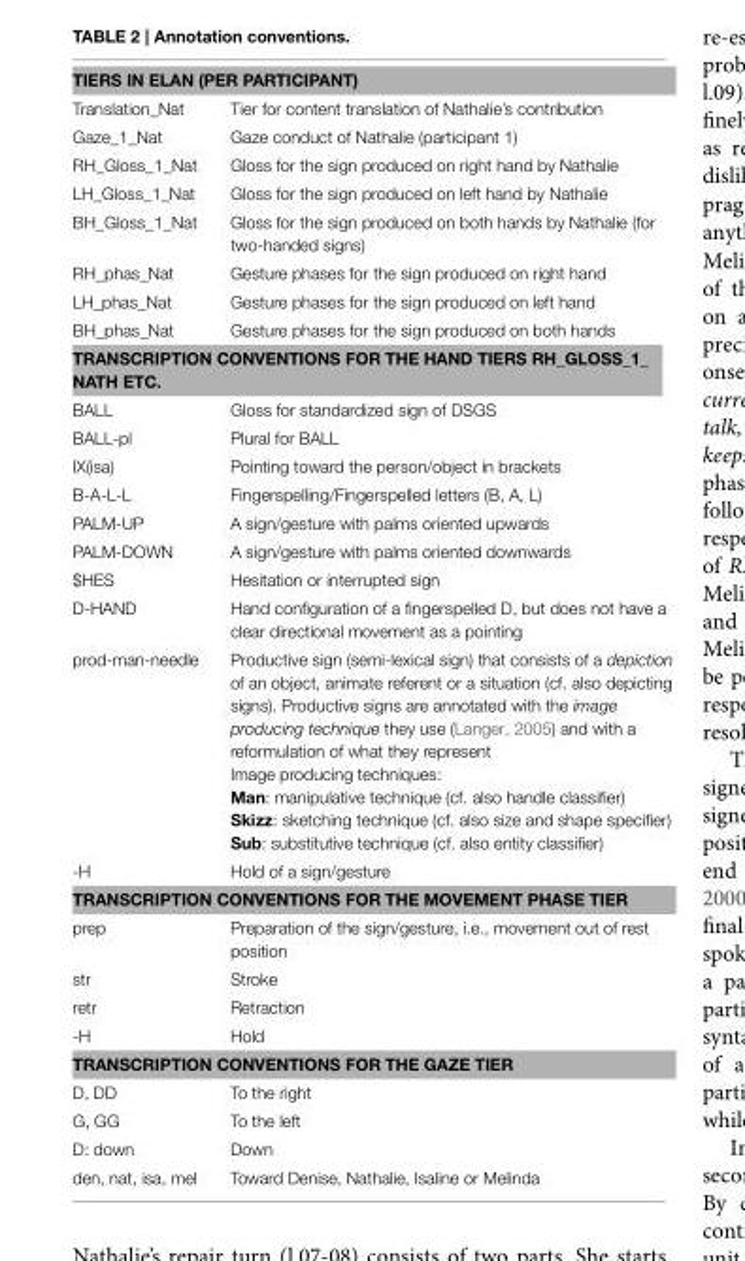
<table><tbody><tr><td colspan="2">TIERS IN ELAN (PER PARTICIPANT)</td></tr><tr><td>Translation_Nat</td><td>Tier for content translation of Nathalie’s contribution</td></tr><tr><td>Gaze_1_Nat</td><td>Gaze conduct of Nathalie (participant 1)</td></tr><tr><td>RH_Gloss_1_Nat</td><td>Gloss for the sign produced on right hand by Nathalie</td></tr><tr><td>LH_Gloss_1_Nat</td><td>Gloss for the sign produced on left hand by Nathalie</td></tr><tr><td>BH_Gloss_1_Nat</td><td>Gloss for the sign produced on both hands by Nathalie (for two-handed signs)</td></tr><tr><td>RH_phas_Nat</td><td>Gesture phases for the sign produced on right hand</td></tr><tr><td>LH_phas_Nat</td><td>Gesture phases for the sign produced on left hand</td></tr><tr><td>BH_phas_Nat</td><td>Gesture phases for the sign produced on both hands</td></tr><tr><td colspan="2">TRANSCRIPTION CONVENTIONS FOR THE HAND TIERS RH_GLOSS_1_ NATH ETC.</td></tr><tr><td>BALL</td><td>Gloss for standardized sign of DSGS</td></tr><tr><td>BALL-pl</td><td>Plural for BALL</td></tr><tr><td>IX(isa)</td><td>Pointing toward the person/object in brackets</td></tr><tr><td>B-A-L-L</td><td>Fingerspelling/Fingerspelled letters (B, A, L)</td></tr><tr><td>PALM-UP</td><td>A sign/gesture with palms oriented upwards</td></tr><tr><td>PALM-DOWN</td><td>A sign/gesture with palms oriented downwards</td></tr><tr><td>$HES</td><td>Hesitation or interrupted sign</td></tr><tr><td>D-HAND</td><td>Hand configuration of a fingerspelled D, but does not have a clear directional movement as a pointing</td></tr><tr><td>prod-man-needle</td><td>Productive sign (semi-lexical sign) that consists of a depiction of an object, animate referent or a situation (cf. also depicting signs). Productive signs are annotated with the image producing technique they use (Langer, 2005) and with a reformulation of what they represent Image producing techniques: Man: manipulative technique (cf. also handle classifier) Skizz: sketching technique (cf. also size and shape specifier) Sub: substitutive technique (cf. also entity classifier)</td></tr><tr><td>-H</td><td>Hold of a sign/gesture</td></tr><tr><td colspan="2">TRANSCRIPTION CONVENTIONS FOR THE MOVEMENT PHASE TIER</td></tr><tr><td>prep</td><td>Preparation of the sign/gesture, i.e., movement out of rest position</td></tr><tr><td>str</td><td>Stroke</td></tr><tr><td>retr</td><td>Retraction</td></tr><tr><td>-H</td><td>Hold</td></tr><tr><td colspan="2">TRANSCRIPTION CONVENTIONS FOR THE GAZE TIER</td></tr><tr><td>D, DD</td><td>To the right</td></tr><tr><td>G, GG</td><td>To the left</td></tr><tr><td>D: down</td><td>Down</td></tr><tr><td>den, nat, isa, mel</td><td>Toward Denise, Nathalie, Isaline or Melinda</td></tr></tbody></table>